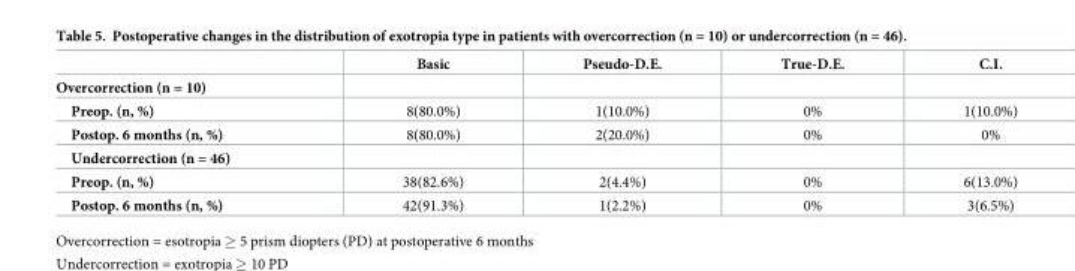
<table><thead><tr><td></td><td>Basic</td><td>Pseudo-D.E.</td><td>True-D.E.</td><td>C.I.</td></tr></thead><tbody><tr><td colspan="5">Overcorrection (n = 10)</td></tr><tr><td>Preop. (n, %)</td><td>8(80.0%)</td><td>1(10.0%)</td><td>0%</td><td>1(10.0%)</td></tr><tr><td>Postop. 6 months (n, %)</td><td>8(80.0%)</td><td>2(20.0%)</td><td>0%</td><td>0%</td></tr><tr><td colspan="5">Undercorrection (n = 46)</td></tr><tr><td>Preop. (n, %)</td><td>38(82.6%)</td><td>2(4.4%)</td><td>0%</td><td>6(13.0%)</td></tr><tr><td>Postop. 6 months (n, %)</td><td>42(91.3%)</td><td>1(2.2%)</td><td>0%</td><td>3(6.5%)</td></tr></tbody></table>